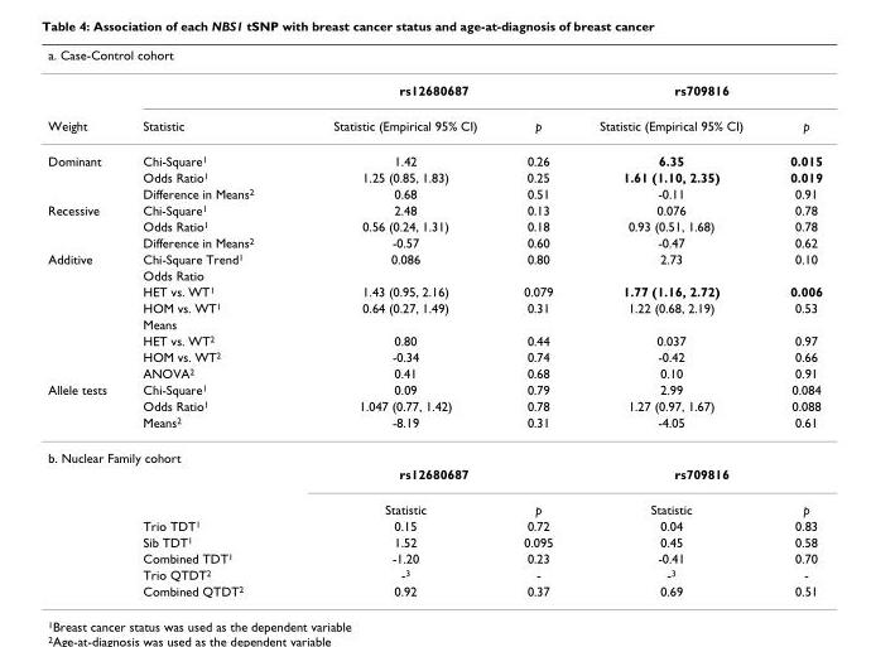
<table><thead><tr><td colspan="6">a. Case-Control cohort</td></tr><tr><td rowspan="2">Weight</td><td rowspan="2">Statistic</td><td colspan="2">rs12680687</td><td colspan="2">rs709816</td></tr><tr><td>Statistic (Empirical 95% CI)</td><td>p</td><td>Statistic (Empirical 95% CI)</td><td>p</td></tr></thead><tbody><tr><td rowspan="3">Dominant</td><td>Chi-Square1</td><td>1.42</td><td>0.26</td><td>6.35</td><td>0.015</td></tr><tr><td>Odds Ratio1</td><td>1.25 (0.85, 1.83)</td><td>0.25</td><td>1.61 (1.10, 2.35)</td><td>0.019</td></tr><tr><td>Difference in Means2</td><td>0.68</td><td>0.51</td><td>-0.11</td><td>0.91</td></tr><tr><td rowspan="3">Recessive</td><td>Chi-Square1</td><td>2.48</td><td>0.13</td><td>0.076</td><td>0.78</td></tr><tr><td>Odds Ratio1</td><td>0.56 (0.24, 1.31)</td><td>0.18</td><td>0.93 (0.51, 1.68)</td><td>0.78</td></tr><tr><td>Difference in Means2</td><td>-0.57</td><td>0.60</td><td>-0.47</td><td>0.62</td></tr><tr><td rowspan="8">Additive</td><td>Chi-Square Trend1</td><td>0.086</td><td>0.80</td><td>2.73</td><td>0.10</td></tr><tr><td>Odds Ratio</td><td></td><td></td><td></td><td></td></tr><tr><td>HET vs. WT1</td><td>1.43 (0.95, 2.16)</td><td>0.079</td><td>1.77 (1.16, 2.72)</td><td>0.006</td></tr><tr><td>HOM vs. WT1</td><td>0.64 (0.27, 1.49)</td><td>0.31</td><td>1.22 (0.68, 2.19)</td><td>0.53</td></tr><tr><td>Means</td><td></td><td></td><td></td><td></td></tr><tr><td>HET vs. WT2</td><td>0.80</td><td>0.44</td><td>0.037</td><td>0.97</td></tr><tr><td>HOM vs. WT2</td><td>-0.34</td><td>0.74</td><td>-0.42</td><td>0.66</td></tr><tr><td>ANOVA2</td><td>0.41</td><td>0.68</td><td>0.10</td><td>0.91</td></tr><tr><td rowspan="3">Allele tests</td><td>Chi-Square1</td><td>0.09</td><td>0.79</td><td>2.99</td><td>0.084</td></tr><tr><td>Odds Ratio1</td><td>1.047 (0.77, 1.42)</td><td>0.78</td><td>1.27 (0.97, 1.67)</td><td>0.088</td></tr><tr><td>Means2</td><td>-8.19</td><td>0.31</td><td>-4.05</td><td>0.61</td></tr><tr><td colspan="6">b. Nuclear Family cohort</td></tr><tr><td></td><td></td><td colspan="2">rs12680687</td><td colspan="2">rs709816</td></tr><tr><td></td><td></td><td>Statistic</td><td>p</td><td>Statistic</td><td>p</td></tr><tr><td></td><td>Trio TDT1</td><td>0.15</td><td>0.72</td><td>0.04</td><td>0.83</td></tr><tr><td></td><td>Sib TDT1</td><td>1.52</td><td>0.095</td><td>0.45</td><td>0.58</td></tr><tr><td></td><td>Combined TDT1</td><td>-1.20</td><td>0.23</td><td>-0.41</td><td>0.70</td></tr><tr><td></td><td>Trio QTDT2</td><td>-3</td><td>-</td><td>-3</td><td>-</td></tr><tr><td></td><td>Combined QTDT2</td><td>0.92</td><td>0.37</td><td>0.69</td><td>0.51</td></tr></tbody></table>